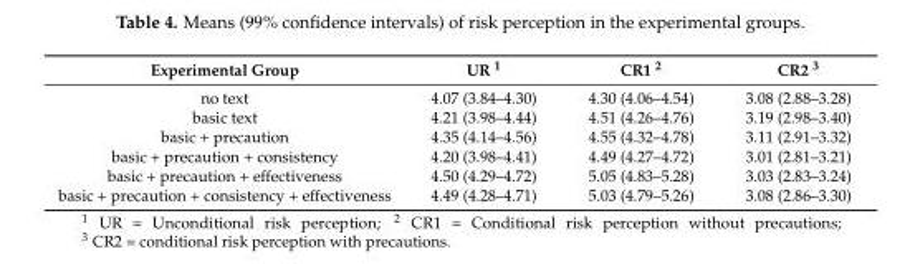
<table><thead><tr><td>Experimental Group</td><td>UR <sup>1</sup></td><td>CR1 <sup>2</sup></td><td>CR2 <sup>3</sup></td></tr></thead><tbody><tr><td>no text</td><td>4.07 (3.84–4.30)</td><td>4.30 (4.06–4.54)</td><td>3.08 (2.88–3.28)</td></tr><tr><td>basic text</td><td>4.21 (3.98–4.44)</td><td>4.51 (4.26–4.76)</td><td>3.19 (2.98–3.40)</td></tr><tr><td>basic + precaution</td><td>4.35 (4.14–4.56)</td><td>4.55 (4.32–4.78)</td><td>3.11 (2.91–3.32)</td></tr><tr><td>basic + precaution + consistency</td><td>4.20 (3.98–4.41)</td><td>4.49 (4.27–4.72)</td><td>3.01 (2.81–3.21)</td></tr><tr><td>basic + precaution + effectiveness</td><td>4.50 (4.29–4.72)</td><td>5.05 (4.83–5.28)</td><td>3.03 (2.83–3.24)</td></tr><tr><td>basic + precaution + consistency + effectiveness</td><td>4.49 (4.28–4.71)</td><td>5.03 (4.79–5.26)</td><td>3.08 (2.86–3.30)</td></tr></tbody></table>